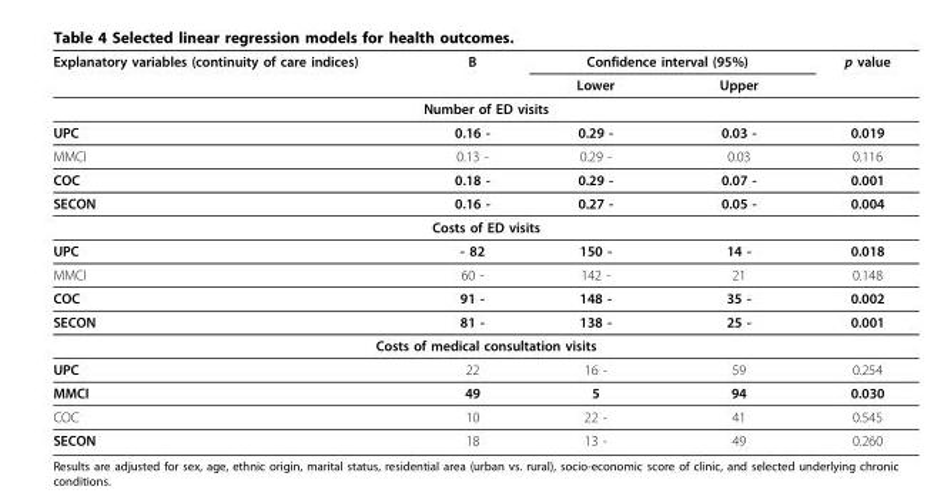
<table><thead><tr><td rowspan="2">Explanatory variables (continuity of care indices)</td><td rowspan="2">B</td><td colspan="2">Confidence interval (95%)</td><td rowspan="2">p value</td></tr><tr><td>Lower</td><td>Upper</td></tr></thead><tbody><tr><td colspan="5">Number of ED visits</td></tr><tr><td>UPC</td><td>0.16 -</td><td>0.29 -</td><td>0.03 -</td><td>0.019</td></tr><tr><td>MMCI</td><td>0.13 -</td><td>0.29 -</td><td>0.03</td><td>0.116</td></tr><tr><td>COC</td><td>0.18 -</td><td>0.29 -</td><td>0.07 -</td><td>0.001</td></tr><tr><td>SECON</td><td>0.16 -</td><td>0.27 -</td><td>0.05 -</td><td>0.004</td></tr><tr><td colspan="5">Costs of ED visits</td></tr><tr><td>UPC</td><td>- 82</td><td>150 -</td><td>14 -</td><td>0.018</td></tr><tr><td>MMCI</td><td>60 -</td><td>142 -</td><td>21</td><td>0.148</td></tr><tr><td>COC</td><td>91 -</td><td>148 -</td><td>35 -</td><td>0.002</td></tr><tr><td>SECON</td><td>81 -</td><td>138 -</td><td>25 -</td><td>0.001</td></tr><tr><td colspan="5">Costs of medical consultation visits</td></tr><tr><td>UPC</td><td>22</td><td>16 -</td><td>59</td><td>0.254</td></tr><tr><td>MMCI</td><td>49</td><td>5</td><td>94</td><td>0.030</td></tr><tr><td>COC</td><td>10</td><td>22 -</td><td>41</td><td>0.545</td></tr><tr><td>SECON</td><td>18</td><td>13 -</td><td>49</td><td>0.260</td></tr></tbody></table>